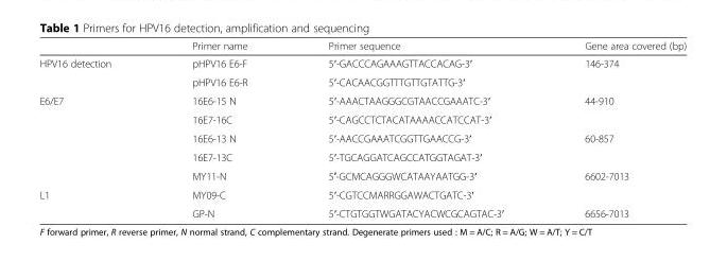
<table><thead><tr><td></td><td>Primer name</td><td>Primer sequence</td><td>Gene area covered (bp)</td></tr></thead><tbody><tr><td rowspan="2">HPV16 detection</td><td>pHPV16 E6-F</td><td>5′-GACCCAGAAAGTTACCACAG-3′</td><td>146-374</td></tr><tr><td>pHPV16 E6-R</td><td>5′-CACAACGGTTTGTTGTATTG-3′</td><td></td></tr><tr><td rowspan="5">E6/E7</td><td>16E6-15 N</td><td>5′-AAACTAAGGGCGTAACCGAAATC-3′</td><td>44-910</td></tr><tr><td>16E7-16C</td><td>5′-CAGCCTCTACATAAAACCATCCAT-3′</td><td></td></tr><tr><td>16E6-13 N</td><td>5′-AACCGAAATCGGTTGAACCG-3′</td><td>60-857</td></tr><tr><td>16E7-13C</td><td>5′-TGCAGGATCAGCCATGGTAGAT-3′</td><td></td></tr><tr><td>MY11-N</td><td>5′-GCMCAGGGWCATAAYAATGG-3′</td><td>6602-7013</td></tr><tr><td rowspan="2">L1</td><td>MY09-C</td><td>5′-CGTCCMARRGGAWACTGATC-3′</td><td></td></tr><tr><td>GP-N</td><td>5′-CTGTGGTWGATACYACWCGCAGTAC-3′</td><td>6656-7013</td></tr></tbody></table>